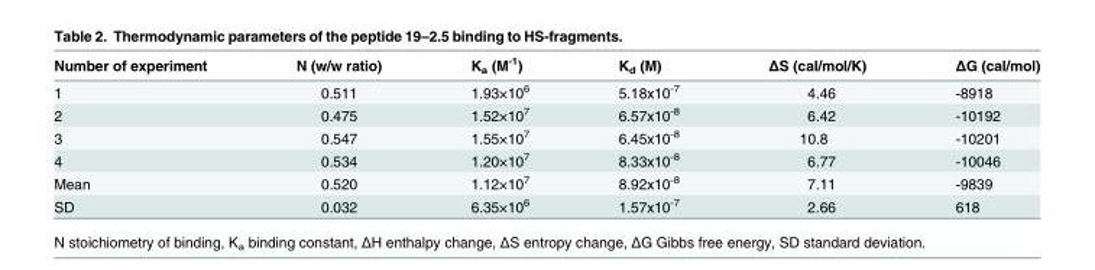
<table><thead><tr><td>Number of experiment</td><td>N (w/w ratio)</td><td>K<sub>a</sub> (M<sup>-1</sup>)</td><td>K<sub>d</sub> (M)</td><td>ΔS (cal/mol/K)</td><td>ΔG (cal/mol)</td></tr></thead><tbody><tr><td>1</td><td>0.511</td><td>1.93×10<sup>6</sup></td><td>5.18x10<sup>-7</sup></td><td>4.46</td><td>-8918</td></tr><tr><td>2</td><td>0.475</td><td>1.52×10<sup>7</sup></td><td>6.57x10<sup>-8</sup></td><td>6.42</td><td>-10192</td></tr><tr><td>3</td><td>0.547</td><td>1.55×10<sup>7</sup></td><td>6.45x10<sup>-8</sup></td><td>10.8</td><td>-10201</td></tr><tr><td>4</td><td>0.534</td><td>1.20×10<sup>7</sup></td><td>8.33x10<sup>-8</sup></td><td>6.77</td><td>-10046</td></tr><tr><td>Mean</td><td>0.520</td><td>1.12×10<sup>7</sup></td><td>8.92x10<sup>-8</sup></td><td>7.11</td><td>-9839</td></tr><tr><td>SD</td><td>0.032</td><td>6.35×10<sup>6</sup></td><td>1.57x10<sup>-7</sup></td><td>2.66</td><td>618</td></tr></tbody></table>